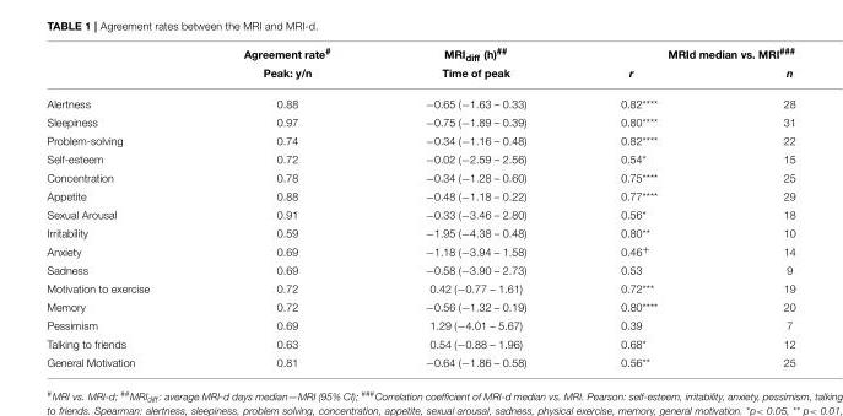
<table><thead><tr><td rowspan="2"></td><td rowspan="2">Agreement rate<sup>#</sup> Peak: y/n</td><td rowspan="2">MRI<sub>diff</sub> (h)<sup>##</sup> Time of peak</td><td colspan="2">MRId median vs. MRI<sup>###</sup></td></tr><tr><td>r</td><td>n</td></tr></thead><tbody><tr><td>Alertness</td><td>0.88</td><td>−0.65 (−1.63 – 0.33)</td><td>0.82****</td><td>28</td></tr><tr><td>Sleepiness</td><td>0.97</td><td>−0.75 (−1.89 – 0.39)</td><td>0.80****</td><td>31</td></tr><tr><td>Problem-solving</td><td>0.74</td><td>−0.34 (−1.16 – 0.48)</td><td>0.82****</td><td>22</td></tr><tr><td>Self-esteem</td><td>0.72</td><td>−0.02 (−2.59 – 2.56)</td><td>0.54*</td><td>15</td></tr><tr><td>Concentration</td><td>0.78</td><td>−0.34 (−1.28 – 0.60)</td><td>0.75****</td><td>25</td></tr><tr><td>Appetite</td><td>0.88</td><td>−0.48 (−1.18 – 0.22)</td><td>0.77****</td><td>29</td></tr><tr><td>Sexual Arousal</td><td>0.91</td><td>−0.33 (−3.46 – 2.80)</td><td>0.56*</td><td>18</td></tr><tr><td>Irritability</td><td>0.59</td><td>−1.95 (−4.38 – 0.48)</td><td>0.80**</td><td>10</td></tr><tr><td>Anxiety</td><td>0.69</td><td>−1.18 (−3.94 – 1.58)</td><td>0.46<sup>+</sup></td><td>14</td></tr><tr><td>Sadness</td><td>0.69</td><td>−0.58 (−3.90 – 2.73)</td><td>0.53</td><td>9</td></tr><tr><td>Motivation to exercise</td><td>0.72</td><td>0.42 (−0.77 – 1.61)</td><td>0.72***</td><td>19</td></tr><tr><td>Memory</td><td>0.72</td><td>−0.56 (−1.32 – 0.19)</td><td>0.80****</td><td>20</td></tr><tr><td>Pessimism</td><td>0.69</td><td>1.29 (−4.01 – 5.67)</td><td>0.39</td><td>7</td></tr><tr><td>Talking to friends</td><td>0.63</td><td>0.54 (−0.88 – 1.96)</td><td>0.68*</td><td>12</td></tr><tr><td>General Motivation</td><td>0.81</td><td>−0.64 (−1.86 – 0.58)</td><td>0.56**</td><td>25</td></tr></tbody></table>